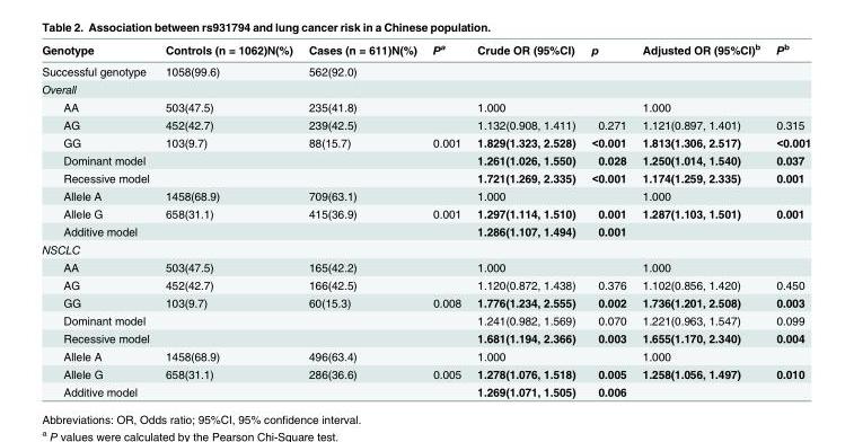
<table><thead><tr><td>Genotype</td><td>Controls (n = 1062)N(%)</td><td>Cases (n = 611)N(%)</td><td>P<sup>a</sup></td><td>Crude OR (95%CI)</td><td>p</td><td>Adjusted OR (95%CI)<sup>b</sup></td><td>P<sup>b</sup></td></tr></thead><tbody><tr><td>Successful genotype</td><td>1058(99.6)</td><td>562(92.0)</td><td></td><td></td><td></td><td></td><td></td></tr><tr><td colspan="8">Overall</td></tr><tr><td>AA</td><td>503(47.5)</td><td>235(41.8)</td><td></td><td>1.000</td><td></td><td>1.000</td><td></td></tr><tr><td>AG</td><td>452(42.7)</td><td>239(42.5)</td><td></td><td>1.132(0.908, 1.411)</td><td>0.271</td><td>1.121(0.897, 1.401)</td><td>0.315</td></tr><tr><td>GG</td><td>103(9.7)</td><td>88(15.7)</td><td>0.001</td><td>1.829(1.323, 2.528)</td><td>&lt;0.001</td><td>1.813(1.306, 2.517)</td><td>&lt;0.001</td></tr><tr><td>Dominant model</td><td></td><td></td><td></td><td>1.261(1.026, 1.550)</td><td>0.028</td><td>1.250(1.014, 1.540)</td><td>0.037</td></tr><tr><td>Recessive model</td><td></td><td></td><td></td><td>1.721(1.269, 2.335)</td><td>&lt;0.001</td><td>1.174(1.259, 2.335)</td><td>0.001</td></tr><tr><td>Allele A</td><td>1458(68.9)</td><td>709(63.1)</td><td></td><td>1.000</td><td></td><td>1.000</td><td></td></tr><tr><td>Allele G</td><td>658(31.1)</td><td>415(36.9)</td><td>0.001</td><td>1.297(1.114, 1.510)</td><td>0.001</td><td>1.287(1.103, 1.501)</td><td>0.001</td></tr><tr><td>Additive model</td><td></td><td></td><td></td><td>1.286(1.107, 1.494)</td><td>0.001</td><td></td><td></td></tr><tr><td colspan="8">NSCLC</td></tr><tr><td>AA</td><td>503(47.5)</td><td>165(42.2)</td><td></td><td>1.000</td><td></td><td>1.000</td><td></td></tr><tr><td>AG</td><td>452(42.7)</td><td>166(42.5)</td><td></td><td>1.120(0.872, 1.438)</td><td>0.376</td><td>1.102(0.856, 1.420)</td><td>0.450</td></tr><tr><td>GG</td><td>103(9.7)</td><td>60(15.3)</td><td>0.008</td><td>1.776(1.234, 2.555)</td><td>0.002</td><td>1.736(1.201, 2.508)</td><td>0.003</td></tr><tr><td>Dominant model</td><td></td><td></td><td></td><td>1.241(0.982, 1.569)</td><td>0.070</td><td>1.221(0.963, 1.547)</td><td>0.099</td></tr><tr><td>Recessive model</td><td></td><td></td><td></td><td>1.681(1.194, 2.366)</td><td>0.003</td><td>1.655(1.170, 2.340)</td><td>0.004</td></tr><tr><td>Allele A</td><td>1458(68.9)</td><td>496(63.4)</td><td></td><td>1.000</td><td></td><td>1.000</td><td></td></tr><tr><td>Allele G</td><td>658(31.1)</td><td>286(36.6)</td><td>0.005</td><td>1.278(1.076, 1.518)</td><td>0.005</td><td>1.258(1.056, 1.497)</td><td>0.010</td></tr><tr><td>Additive model</td><td></td><td></td><td></td><td>1.269(1.071, 1.505)</td><td>0.006</td><td></td><td></td></tr></tbody></table>